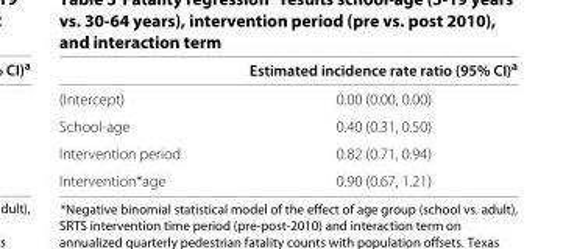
<table><thead><tr><td></td><td>Estimated incidence rate ratio (95% CI)<sup>a</sup></td></tr></thead><tbody><tr><td>(Intercept)</td><td>0.00 (0.00, 0.00)</td></tr><tr><td>School-age</td><td>0.40 (0.31, 0.50)</td></tr><tr><td>Intervention period</td><td>0.82 (0.71, 0.94)</td></tr><tr><td>Intervention*age</td><td>0.90 (0.67, 1.21)</td></tr></tbody></table>